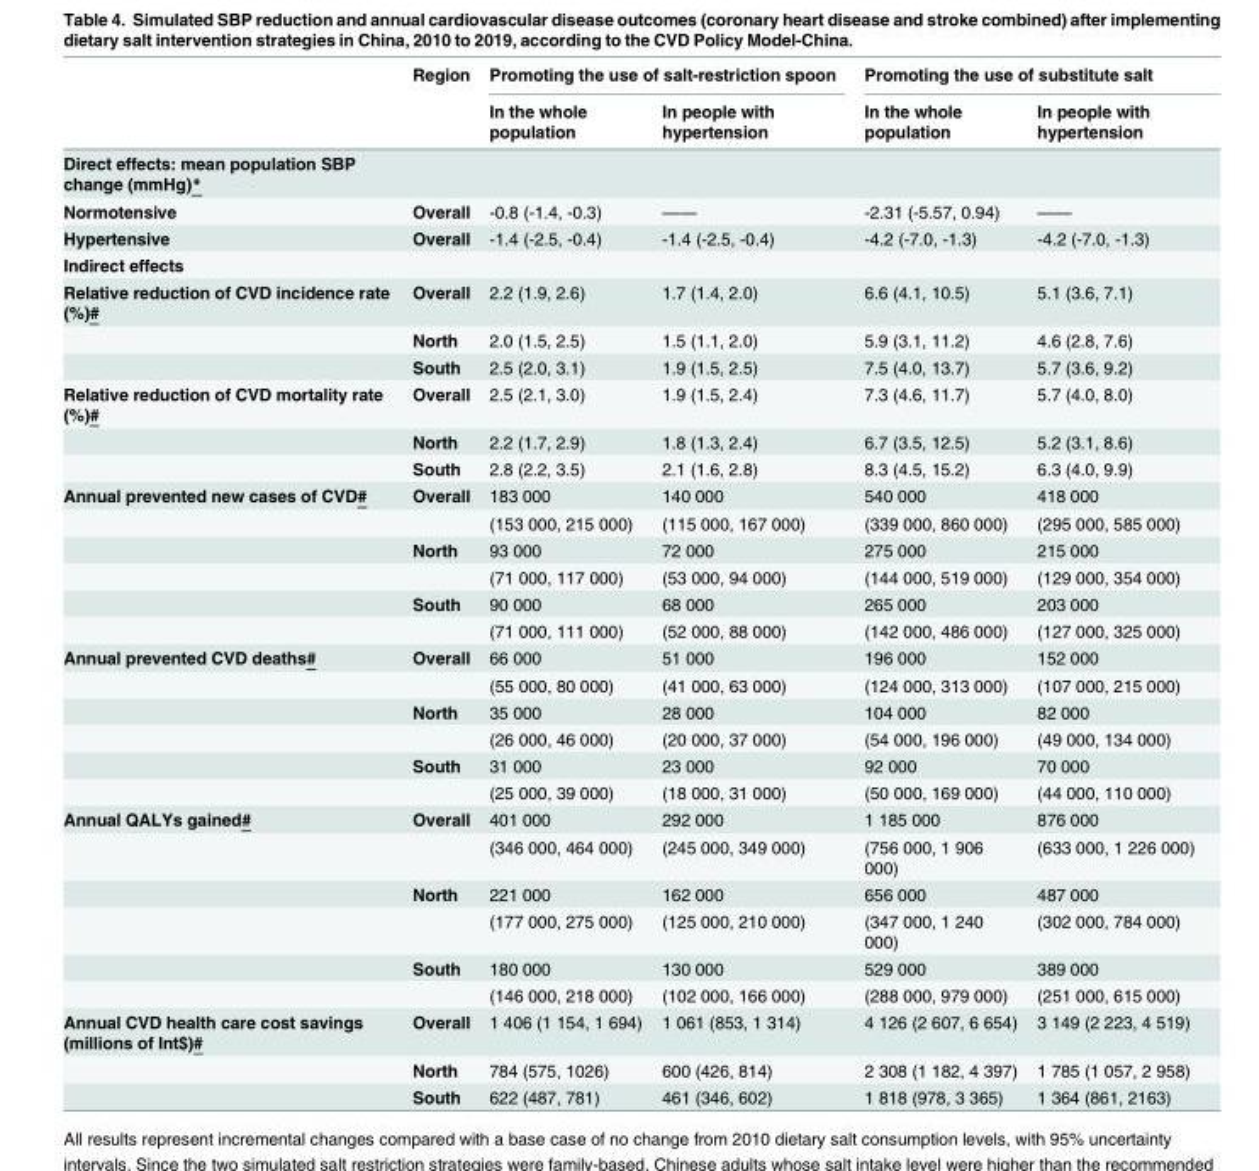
<table><thead><tr><td rowspan="2"></td><td rowspan="2">Region</td><td colspan="2">Promoting the use of salt-restriction spoon</td><td colspan="2">Promoting the use of substitute salt</td></tr><tr><td>In the whole population</td><td>In people with hypertension</td><td>In the whole population</td><td>In people with hypertension</td></tr></thead><tbody><tr><td colspan="6">Direct effects: mean population SBP change (mmHg)*</td></tr><tr><td>Normotensive</td><td>Overall</td><td>-0.8 (-1.4, -0.3)</td><td>——</td><td>-2.31 (-5.57, 0.94)</td><td>——</td></tr><tr><td>Hypertensive</td><td>Overall</td><td>-1.4 (-2.5, -0.4)</td><td>-1.4 (-2.5, -0.4)</td><td>-4.2 (-7.0, -1.3)</td><td>-4.2 (-7.0, -1.3)</td></tr><tr><td colspan="6">Indirect effects</td></tr><tr><td rowspan="3">Relative reduction of CVD incidence rate (%)#</td><td>Overall</td><td>2.2 (1.9, 2.6)</td><td>1.7 (1.4, 2.0)</td><td>6.6 (4.1, 10.5)</td><td>5.1 (3.6, 7.1)</td></tr><tr><td>North</td><td>2.0 (1.5, 2.5)</td><td>1.5 (1.1, 2.0)</td><td>5.9 (3.1, 11.2)</td><td>4.6 (2.8, 7.6)</td></tr><tr><td>South</td><td>2.5 (2.0, 3.1)</td><td>1.9 (1.5, 2.5)</td><td>7.5 (4.0, 13.7)</td><td>5.7 (3.6, 9.2)</td></tr><tr><td rowspan="3">Relative reduction of CVD mortality rate (%)#</td><td>Overall</td><td>2.5 (2.1, 3.0)</td><td>1.9 (1.5, 2.4)</td><td>7.3 (4.6, 11.7)</td><td>5.7 (4.0, 8.0)</td></tr><tr><td>North</td><td>2.2 (1.7, 2.9)</td><td>1.8 (1.3, 2.4)</td><td>6.7 (3.5, 12.5)</td><td>5.2 (3.1, 8.6)</td></tr><tr><td>South</td><td>2.8 (2.2, 3.5)</td><td>2.1 (1.6, 2.8)</td><td>8.3 (4.5, 15.2)</td><td>6.3 (4.0, 9.9)</td></tr><tr><td rowspan="6">Annual prevented new cases of CVD#</td><td>Overall</td><td>183 000</td><td>140 000</td><td>540 000</td><td>418 000</td></tr><tr><td></td><td>(153 000, 215 000)</td><td>(115 000, 167 000)</td><td>(339 000, 860 000)</td><td>(295 000, 585 000)</td></tr><tr><td>North</td><td>93 000</td><td>72 000</td><td>275 000</td><td>215 000</td></tr><tr><td></td><td>(71 000, 117 000)</td><td>(53 000, 94 000)</td><td>(144 000, 519 000)</td><td>(129 000, 354 000)</td></tr><tr><td>South</td><td>90 000</td><td>68 000</td><td>265 000</td><td>203 000</td></tr><tr><td></td><td>(71 000, 111 000)</td><td>(52 000, 88 000)</td><td>(142 000, 486 000)</td><td>(127 000, 325 000)</td></tr><tr><td rowspan="6">Annual prevented CVD deaths#</td><td>Overall</td><td>66 000</td><td>51 000</td><td>196 000</td><td>152 000</td></tr><tr><td></td><td>(55 000, 80 000)</td><td>(41 000, 63 000)</td><td>(124 000, 313 000)</td><td>(107 000, 215 000)</td></tr><tr><td>North</td><td>35 000</td><td>28 000</td><td>104 000</td><td>82 000</td></tr><tr><td></td><td>(26 000, 46 000)</td><td>(20 000, 37 000)</td><td>(54 000, 196 000)</td><td>(49 000, 134 000)</td></tr><tr><td>South</td><td>31 000</td><td>23 000</td><td>92 000</td><td>70 000</td></tr><tr><td></td><td>(25 000, 39 000)</td><td>(18 000, 31 000)</td><td>(50 000, 169 000)</td><td>(44 000, 110 000)</td></tr><tr><td rowspan="6">Annual QALYs gained#</td><td>Overall</td><td>401 000</td><td>292 000</td><td>1 185 000</td><td>876 000</td></tr><tr><td></td><td>(346 000, 464 000)</td><td>(245 000, 349 000)</td><td>(756 000, 1 906 000)</td><td>(633 000, 1 226 000)</td></tr><tr><td>North</td><td>221 000</td><td>162 000</td><td>656 000</td><td>487 000</td></tr><tr><td></td><td>(177 000, 275 000)</td><td>(125 000, 210 000)</td><td>(347 000, 1 240 000)</td><td>(302 000, 784 000)</td></tr><tr><td>South</td><td>180 000</td><td>130 000</td><td>529 000</td><td>389 000</td></tr><tr><td></td><td>(146 000, 218 000)</td><td>(102 000, 166 000)</td><td>(288 000, 979 000)</td><td>(251 000, 615 000)</td></tr><tr><td rowspan="3">Annual CVD health care cost savings (millions of Int$)#</td><td>Overall</td><td>1 406 (1 154, 1 694)</td><td>1 061 (853, 1 314)</td><td>4 126 (2 607, 6 654)</td><td>3 149 (2 223, 4 519)</td></tr><tr><td>North</td><td>784 (575, 1026)</td><td>600 (426, 814)</td><td>2 308 (1 182, 4 397)</td><td>1 785 (1 057, 2 958)</td></tr><tr><td>South</td><td>622 (487, 781)</td><td>461 (346, 602)</td><td>1 818 (978, 3 365)</td><td>1 364 (861, 2163)</td></tr></tbody></table>